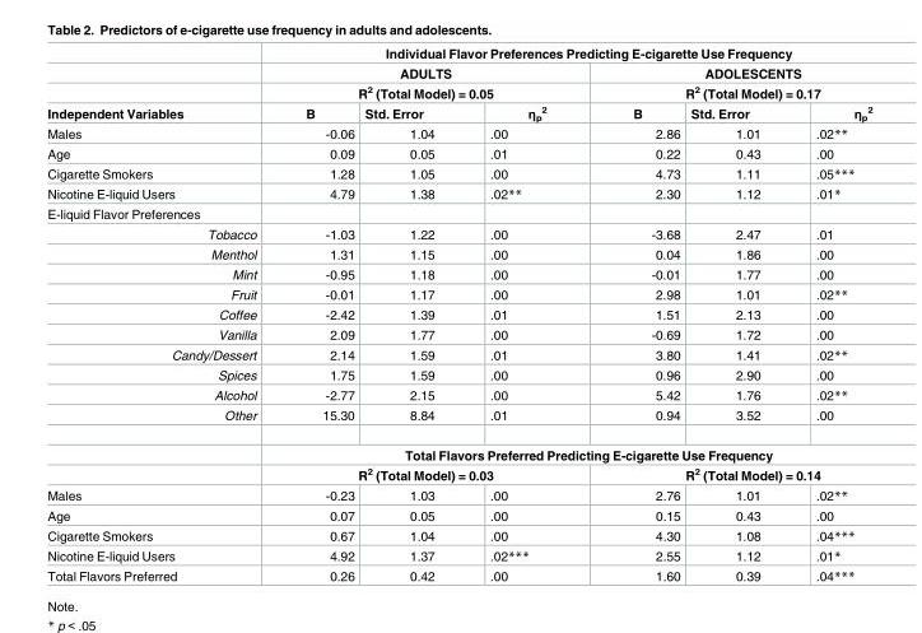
<table><thead><tr><td rowspan="4">Independent Variables</td><td colspan="6">Individual Flavor Preferences Predicting E-cigarette Use Frequency</td></tr><tr><td rowspan="2" colspan="3">ADULTS R<sup>2</sup> (Total Model) = 0.05</td><td rowspan="2" colspan="3">ADOLESCENTS R<sup>2</sup> (Total Model) = 0.17</td></tr><tr></tr><tr><td>B</td><td>Std. Error</td><td>η<sub>p</sub> <sup>2</sup></td><td>B</td><td>Std. Error</td><td>η<sub>p</sub> <sup>2</sup></td></tr></thead><tbody><tr><td>Males</td><td>-0.06</td><td>1.04</td><td>.00</td><td>2.86</td><td>1.01</td><td>.02**</td></tr><tr><td>Age</td><td>0.09</td><td>0.05</td><td>.01</td><td>0.22</td><td>0.43</td><td>.00</td></tr><tr><td>Cigarette Smokers</td><td>1.28</td><td>1.05</td><td>.00</td><td>4.73</td><td>1.11</td><td>.05***</td></tr><tr><td>Nicotine E-liquid Users</td><td>4.79</td><td>1.38</td><td>.02**</td><td>2.30</td><td>1.12</td><td>.01*</td></tr><tr><td colspan="7">E-liquid Flavor Preferences</td></tr><tr><td>Tobacco</td><td>-1.03</td><td>1.22</td><td>.00</td><td>-3.68</td><td>2.47</td><td>.01</td></tr><tr><td>Menthol</td><td>1.31</td><td>1.15</td><td>.00</td><td>0.04</td><td>1.86</td><td>.00</td></tr><tr><td>Mint</td><td>-0.95</td><td>1.18</td><td>.00</td><td>-0.01</td><td>1.77</td><td>.00</td></tr><tr><td>Fruit</td><td>-0.01</td><td>1.17</td><td>.00</td><td>2.98</td><td>1.01</td><td>.02**</td></tr><tr><td>Coffee</td><td>-2.42</td><td>1.39</td><td>.01</td><td>1.51</td><td>2.13</td><td>.00</td></tr><tr><td>Vanilla</td><td>2.09</td><td>1.77</td><td>.00</td><td>-0.69</td><td>1.72</td><td>.00</td></tr><tr><td>Candy/Dessert</td><td>2.14</td><td>1.59</td><td>.01</td><td>3.80</td><td>1.41</td><td>.02**</td></tr><tr><td>Spices</td><td>1.75</td><td>1.59</td><td>.00</td><td>0.96</td><td>2.90</td><td>.00</td></tr><tr><td>Alcohol</td><td>-2.77</td><td>2.15</td><td>.00</td><td>5.42</td><td>1.76</td><td>.02**</td></tr><tr><td rowspan="3">Other</td><td>15.30</td><td>8.84</td><td>.01</td><td>0.94</td><td>3.52</td><td>.00</td></tr><tr><td colspan="6">Total Flavors Preferred Predicting E-cigarette Use Frequency</td></tr><tr><td colspan="3">R<sup>2</sup> (Total Model) = 0.03</td><td colspan="3">R<sup>2</sup> (Total Model) = 0.14</td></tr><tr><td>Males</td><td>-0.23</td><td>1.03</td><td>.00</td><td>2.76</td><td>1.01</td><td>.02**</td></tr><tr><td>Age</td><td>0.07</td><td>0.05</td><td>.00</td><td>0.15</td><td>0.43</td><td>.00</td></tr><tr><td>Cigarette Smokers</td><td>0.67</td><td>1.04</td><td>.00</td><td>4.30</td><td>1.08</td><td>.04***</td></tr><tr><td>Nicotine E-liquid Users</td><td>4.92</td><td>1.37</td><td>.02***</td><td>2.55</td><td>1.12</td><td>.01*</td></tr><tr><td>Total Flavors Preferred</td><td>0.26</td><td>0.42</td><td>.00</td><td>1.60</td><td>0.39</td><td>.04***</td></tr></tbody></table>